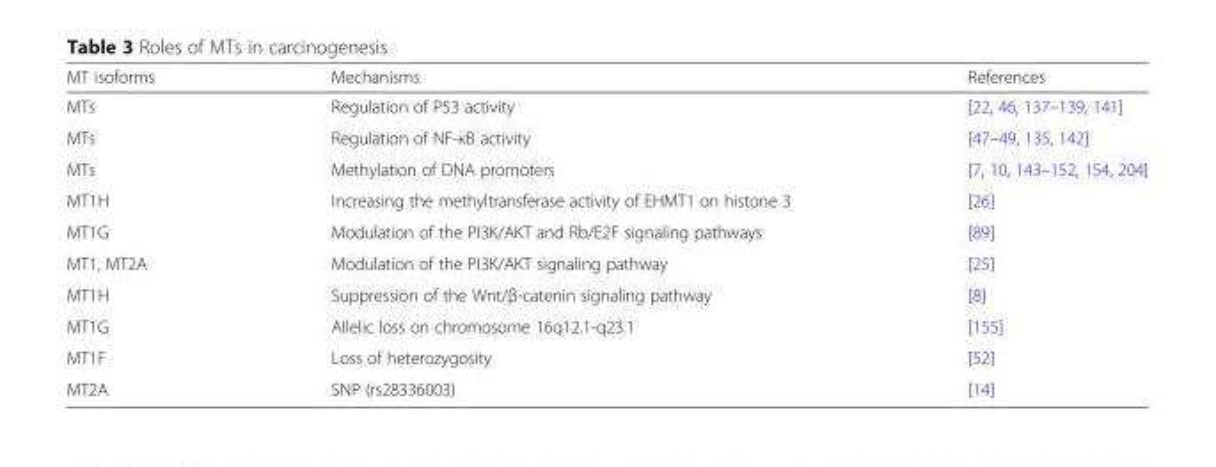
<table><thead><tr><td>MT isoforms</td><td>Mechanisms</td><td>References</td></tr></thead><tbody><tr><td>MTs</td><td>Regulation of P53 activity</td><td>[22, 46, 137–139, 141]</td></tr><tr><td>MTs</td><td>Regulation of NF-κB activity</td><td>[47–49, 135, 142]</td></tr><tr><td>MTs</td><td>Methylation of DNA promoters</td><td>[7, 10, 143–152, 154, 204]</td></tr><tr><td>MT1H</td><td>Increasing the methyltransferase activity of EHMT1 on histone 3</td><td>[26]</td></tr><tr><td>MT1G</td><td>Modulation of the PI3K/AKT and Rb/E2F signaling pathways</td><td>[89]</td></tr><tr><td>MT1, MT2A</td><td>Modulation of the PI3K/AKT signaling pathway</td><td>[25]</td></tr><tr><td>MT1H</td><td>Suppression of the Wnt/β-catenin signaling pathway</td><td>[8]</td></tr><tr><td>MT1G</td><td>Allelic loss on chromosome 16q12.1-q23.1</td><td>[155]</td></tr><tr><td>MT1F</td><td>Loss of heterozygosity</td><td>[52]</td></tr><tr><td>MT2A</td><td>SNP (rs28336003)</td><td>[14]</td></tr></tbody></table>